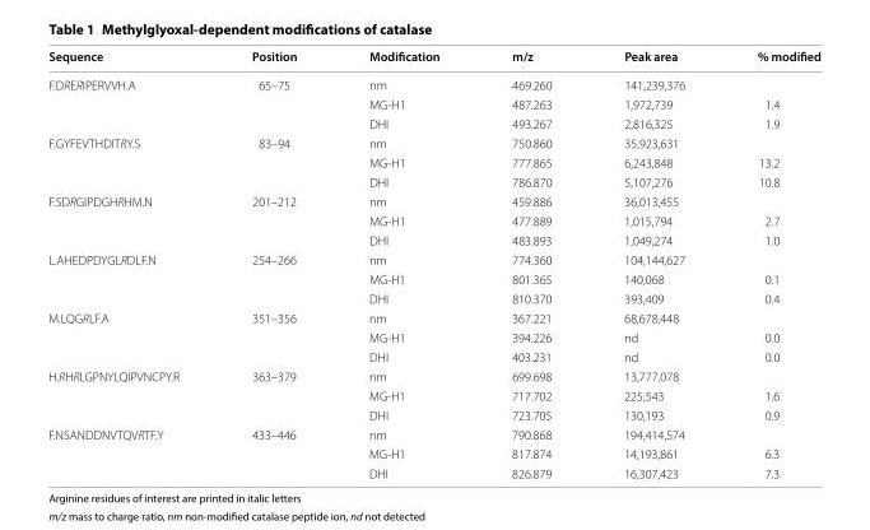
<table><thead><tr><td>Sequence</td><td>Position</td><td>Modification</td><td>m/z</td><td>Peak area</td><td>% modified</td></tr></thead><tbody><tr><td rowspan="3">F.DRERIPERVVH.A</td><td rowspan="3">65–75</td><td>nm</td><td>469.260</td><td>141,239,376</td><td></td></tr><tr><td>MG-H1</td><td>487.263</td><td>1,972,739</td><td>1.4</td></tr><tr><td>DHI</td><td>493.267</td><td>2,816,325</td><td>1.9</td></tr><tr><td rowspan="3">F.GYFEVTHDITRY.S</td><td rowspan="3">83–94</td><td>nm</td><td>750.860</td><td>35,923,631</td><td></td></tr><tr><td>MG-H1</td><td>777.865</td><td>6,243,848</td><td>13.2</td></tr><tr><td>DHI</td><td>786.870</td><td>5,107,276</td><td>10.8</td></tr><tr><td rowspan="3">F.SDRGIPDGHRHM.N</td><td rowspan="3">201–212</td><td>nm</td><td>459.886</td><td>36,013,455</td><td></td></tr><tr><td>MG-H1</td><td>477.889</td><td>1,015,794</td><td>2.7</td></tr><tr><td>DHI</td><td>483.893</td><td>1,049,274</td><td>1.0</td></tr><tr><td rowspan="3">L.AHEDPDYGLRDLF.N</td><td rowspan="3">254–266</td><td>nm</td><td>774.360</td><td>104,144,627</td><td></td></tr><tr><td>MG-H1</td><td>801.365</td><td>140,068</td><td>0.1</td></tr><tr><td>DHI</td><td>810.370</td><td>393,409</td><td>0.4</td></tr><tr><td rowspan="3">M.LQGRLF.A</td><td rowspan="3">351–356</td><td>nm</td><td>367.221</td><td>68,678,448</td><td></td></tr><tr><td>MG-H1</td><td>394.226</td><td>nd</td><td>0.0</td></tr><tr><td>DHI</td><td>403.231</td><td>nd</td><td>0.0</td></tr><tr><td rowspan="3">H.RHRLGPNYLQIPVNCPY.R</td><td rowspan="3">363–379</td><td>nm</td><td>699.698</td><td>13,777,078</td><td></td></tr><tr><td>MG-H1</td><td>717.702</td><td>225,543</td><td>1.6</td></tr><tr><td>DHI</td><td>723.705</td><td>130,193</td><td>0.9</td></tr><tr><td rowspan="3">F.NSANDDNVTQVRTF.Y</td><td rowspan="3">433–446</td><td>nm</td><td>790.868</td><td>194,414,574</td><td></td></tr><tr><td>MG-H1</td><td>817.874</td><td>14,193,861</td><td>6.3</td></tr><tr><td>DHI</td><td>826.879</td><td>16,307,423</td><td>7.3</td></tr></tbody></table>